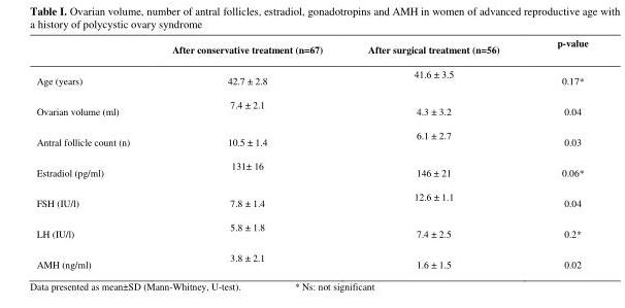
<table><thead><tr><td></td><td>After conservative treatment (n=67)</td><td>After surgical treatment (n=56)</td><td>p-value</td></tr></thead><tbody><tr><td>Age (years)</td><td>42.7 ± 2.8</td><td>41.6 ± 3.5</td><td>0.17*</td></tr><tr><td>Ovarian volume (ml)</td><td>7.4 ± 2.1</td><td>4.3 ± 3.2</td><td>0.04</td></tr><tr><td>Antral follicle count (n)</td><td>10.5 ± 1.4</td><td>6.1 ± 2.7</td><td>0.03</td></tr><tr><td>Estradiol (pg/ml)</td><td>131± 16</td><td>146 ± 21</td><td>0.06*</td></tr><tr><td>FSH (IU/l)</td><td>7.8 ± 1.4</td><td>12.6 ± 1.1</td><td>0.04</td></tr><tr><td>LH (IU/l)</td><td>5.8 ± 1.8</td><td>7.4 ± 2.5</td><td>0.2*</td></tr><tr><td>AMH (ng/ml)</td><td>3.8 ± 2.1</td><td>1.6 ± 1.5</td><td>0.02</td></tr></tbody></table>